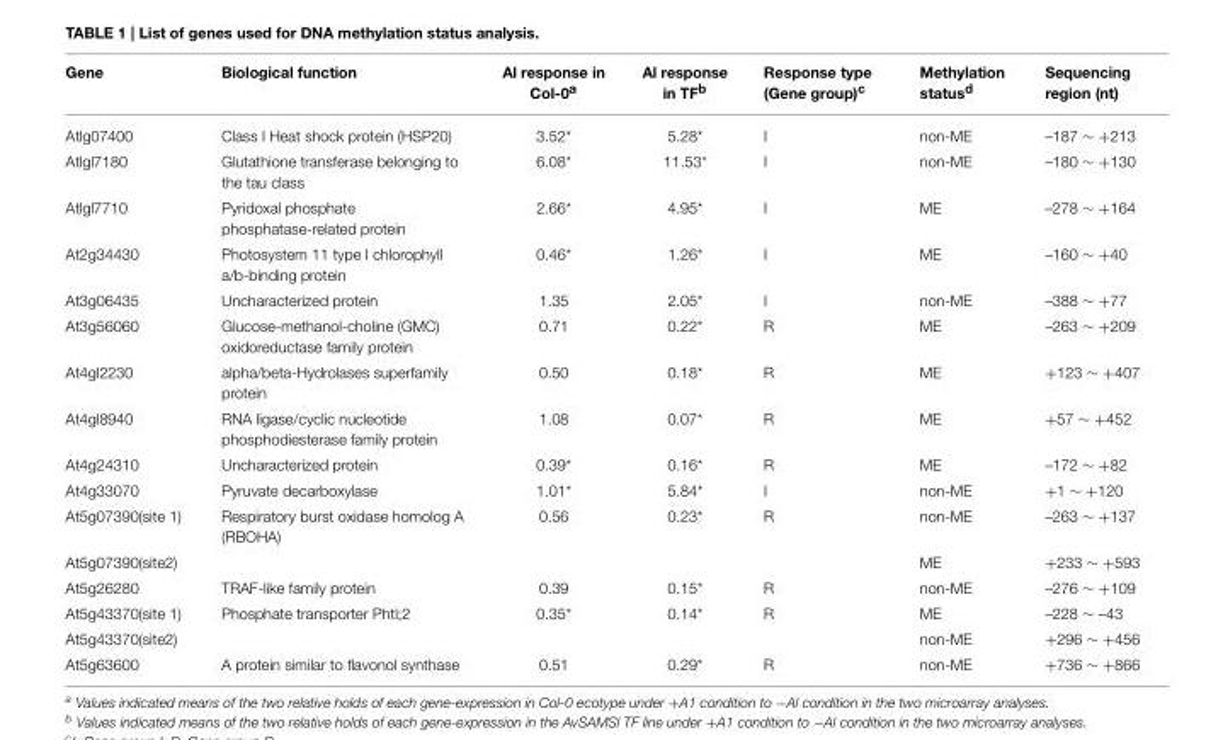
<table><thead><tr><td>Gene</td><td>Biological function</td><td>Al response in Col-0<sup>a</sup></td><td>Al response in TF<sup>b</sup></td><td>Response type (Gene group)<sup>c</sup></td><td>Methylation status<sup>d</sup></td><td>Sequencing region (nt)</td></tr></thead><tbody><tr><td>Atlg07400</td><td>Class I Heat shock protein (HSP20)</td><td>3.52*</td><td>5.28*</td><td>I</td><td>non-ME</td><td>–187 ∼ +213</td></tr><tr><td>Atlgl7180</td><td>Glutathione transferase belonging to the tau class</td><td>6.08*</td><td>11.53*</td><td>I</td><td>non-ME</td><td>–180 ∼ +130</td></tr><tr><td>Atlgl7710</td><td>Pyridoxal phosphate phosphatase-related protein</td><td>2.66*</td><td>4.95*</td><td>I</td><td>ME</td><td>–278 ∼ +164</td></tr><tr><td>At2g34430</td><td>Photosystem 11 type I chlorophyll a/b-binding protein</td><td>0.46*</td><td>1.26*</td><td>I</td><td>ME</td><td>–160 ∼ +40</td></tr><tr><td>At3g06435</td><td>Uncharacterized protein</td><td>1.35</td><td>2.05*</td><td>I</td><td>non-ME</td><td>–388 ∼ +77</td></tr><tr><td>At3g56060</td><td>Glucose-methanol-choline (GMC) oxidoreductase family protein</td><td>0.71</td><td>0.22*</td><td>R</td><td>ME</td><td>–263 ∼ +209</td></tr><tr><td>At4gl2230</td><td>alpha/beta-Hydrolases superfamily protein</td><td>0.50</td><td>0.18*</td><td>R</td><td>ME</td><td>+123 ∼ +407</td></tr><tr><td>At4gl8940</td><td>RNA ligase/cyclic nucleotide phosphodiesterase family protein</td><td>1.08</td><td>0.07*</td><td>R</td><td>ME</td><td>+57 ∼ +452</td></tr><tr><td>At4g24310</td><td>Uncharacterized protein</td><td>0.39*</td><td>0.16*</td><td>R</td><td>ME</td><td>–172 ∼ +82</td></tr><tr><td>At4g33070</td><td>Pyruvate decarboxylase</td><td>1.01*</td><td>5.84*</td><td>I</td><td>non-ME</td><td>+1 ∼ +120</td></tr><tr><td>At5g07390(site 1)</td><td>Respiratory burst oxidase homolog A (RBOHA)</td><td>0.56</td><td>0.23*</td><td>R</td><td>non-ME</td><td>–263 ∼ +137</td></tr><tr><td>At5g07390(site2)</td><td></td><td></td><td></td><td></td><td>ME</td><td>+233 ∼ +593</td></tr><tr><td>At5g26280</td><td>TRAF-like family protein</td><td>0.39</td><td>0.15*</td><td>R</td><td>non-ME</td><td>–276 ∼ +109</td></tr><tr><td>At5g43370(site 1)</td><td>Phosphate transporter Phtl;2</td><td>0.35*</td><td>0.14*</td><td>R</td><td>ME</td><td>–228 ∼ –43</td></tr><tr><td>At5g43370(site2)</td><td></td><td></td><td></td><td></td><td>non-ME</td><td>+296 ∼ +456</td></tr><tr><td>At5g63600</td><td>A protein similar to flavonol synthase</td><td>0.51</td><td>0.29*</td><td>R</td><td>non-ME</td><td>+736 ∼ +866</td></tr></tbody></table>